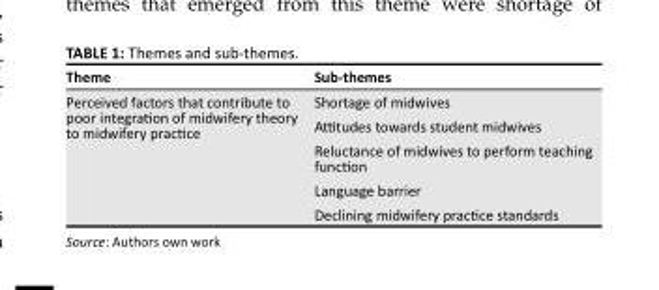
<table><thead><tr><td>Theme</td><td>Sub-themes</td></tr></thead><tbody><tr><td rowspan="5">Perceived factors that contribute to poor integration of midwifery theory to midwifery practice</td><td>Shortage of midwives</td></tr><tr><td>Attitudes towards student midwives</td></tr><tr><td>Reluctance of midwives to perform teaching function</td></tr><tr><td>Language barrier</td></tr><tr><td>Declining midwifery practice standards</td></tr></tbody></table>